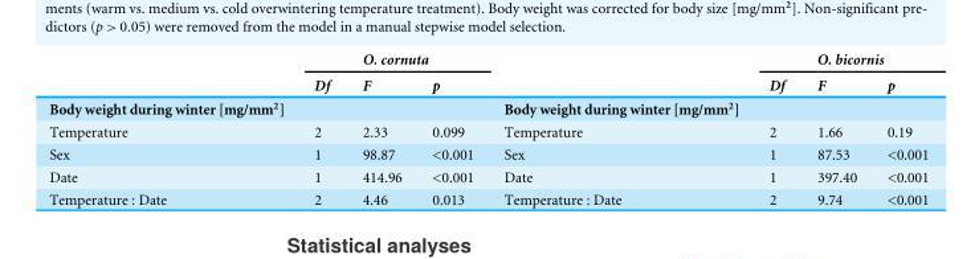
<table><thead><tr><td rowspan="2"></td><td colspan="3">O. cornuta</td><td rowspan="2"></td><td colspan="3">O. bicornis</td></tr><tr><td>Df</td><td>F</td><td>p</td><td>Df</td><td>F</td><td>p</td></tr></thead><tbody><tr><td>Body weight during winter [mg/mm<sup>2</sup>]</td><td></td><td></td><td></td><td>Body weight during winter [mg/mm<sup>2</sup>]</td><td></td><td></td><td></td></tr><tr><td>Temperature</td><td>2</td><td>2.33</td><td>0.099</td><td>Temperature</td><td>2</td><td>1.66</td><td>0.19</td></tr><tr><td>Sex</td><td>1</td><td>98.87</td><td>&lt;0.001</td><td>Sex</td><td>1</td><td>87.53</td><td>&lt;0.001</td></tr><tr><td>Date</td><td>1</td><td>414.96</td><td>&lt;0.001</td><td>Date</td><td>1</td><td>397.40</td><td>&lt;0.001</td></tr><tr><td>Temperature : Date</td><td>2</td><td>4.46</td><td>0.013</td><td>Temperature : Date</td><td>2</td><td>9.74</td><td>&lt;0.001</td></tr></tbody></table>